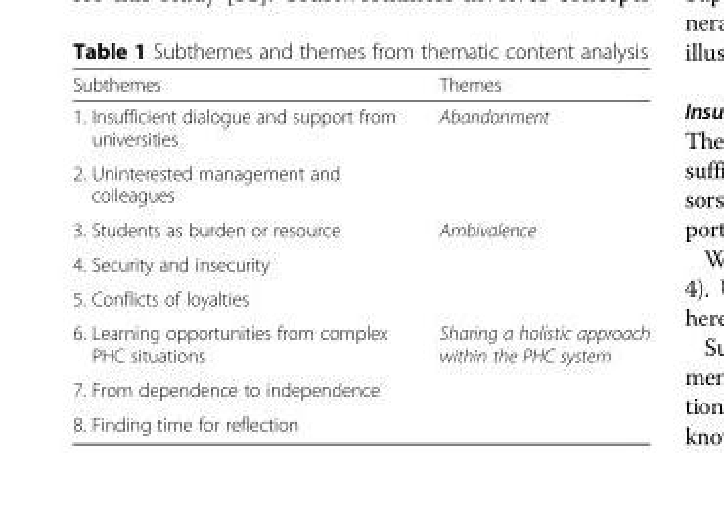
<table><thead><tr><td>Subthemes</td><td>Themes</td></tr></thead><tbody><tr><td>1. Insufficient dialogue and support from universities</td><td rowspan="2">Abandonment</td></tr><tr><td>2. Uninterested management and colleagues</td></tr><tr><td>3. Students as burden or resource</td><td rowspan="3">Ambivalence</td></tr><tr><td>4. Security and insecurity</td></tr><tr><td>5. Conflicts of loyalties</td></tr><tr><td>6. Learning opportunities from complex PHC situations</td><td rowspan="3">Sharing a holistic approach within the PHC system</td></tr><tr><td>7. From dependence to independence</td></tr><tr><td>8. Finding time for reflection</td></tr></tbody></table>